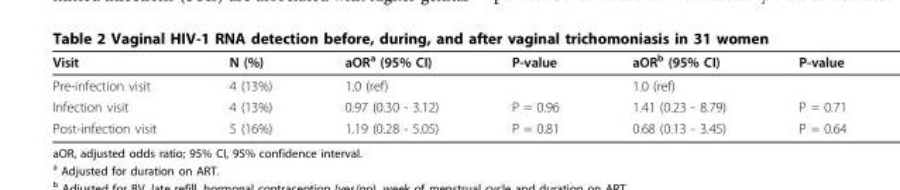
<table><thead><tr><td>Visit</td><td>N (%)</td><td>aOR<sup>a</sup> (95% CI)</td><td>P-value</td><td>aOR<sup>b</sup> (95% CI)</td><td>P-value</td></tr></thead><tbody><tr><td>Pre-infection visit</td><td>4 (13%)</td><td>1.0 (ref)</td><td></td><td>1.0 (ref)</td><td></td></tr><tr><td>Infection visit</td><td>4 (13%)</td><td>0.97 (0.30 - 3.12)</td><td>P = 0.96</td><td>1.41 (0.23 - 8.79)</td><td>P = 0.71</td></tr><tr><td>Post-infection visit</td><td>5 (16%)</td><td>1.19 (0.28 - 5.05)</td><td>P = 0.81</td><td>0.68 (0.13 - 3.45)</td><td>P = 0.64</td></tr></tbody></table>